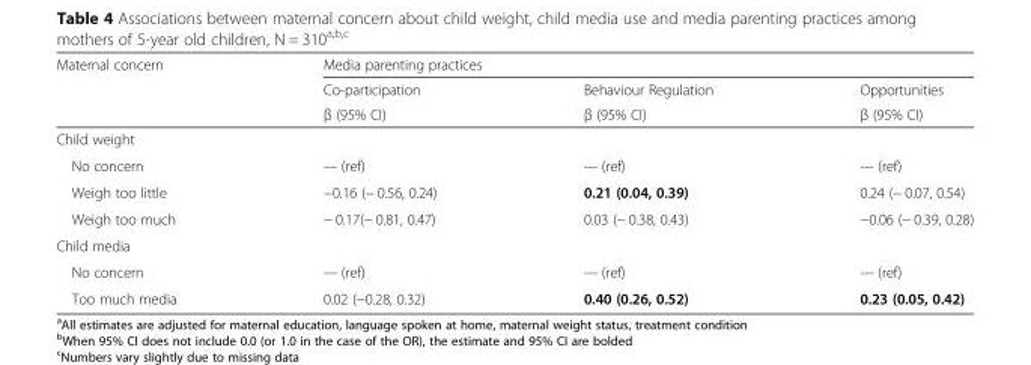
<table><thead><tr><td rowspan="3">Maternal concern</td><td colspan="3">Media parenting practices</td></tr><tr><td rowspan="2">Co-participation β (95% CI)</td><td rowspan="2">Behaviour Regulation β (95% CI)</td><td rowspan="2">Opportunities β (95% CI)</td></tr><tr></tr></thead><tbody><tr><td colspan="4">Child weight</td></tr><tr><td>No concern</td><td>--- (ref)</td><td>--- (ref)</td><td>--- (ref)</td></tr><tr><td>Weigh too little</td><td>−0.16 (− 0.56, 0.24)</td><td>0.21 (0.04, 0.39)</td><td>0.24 (− 0.07, 0.54)</td></tr><tr><td>Weigh too much</td><td>− 0.17(− 0.81, 0.47)</td><td>0.03 (− 0.38, 0.43)</td><td>−0.06 (− 0.39, 0.28)</td></tr><tr><td colspan="4">Child media</td></tr><tr><td>No concern</td><td>--- (ref)</td><td>--- (ref)</td><td>--- (ref)</td></tr><tr><td>Too much media</td><td>0.02 (−0.28, 0.32)</td><td>0.40 (0.26, 0.52)</td><td>0.23 (0.05, 0.42)</td></tr></tbody></table>